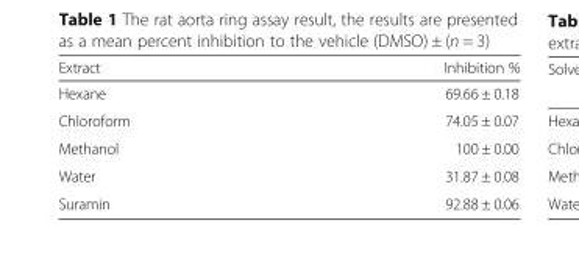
<table><thead><tr><td>Extract</td><td>Inhibition %</td></tr></thead><tbody><tr><td>Hexane</td><td>69.66 ± 0.18</td></tr><tr><td>Chloroform</td><td>74.05 ± 0.07</td></tr><tr><td>Methanol</td><td>100 ± 0.00</td></tr><tr><td>Water</td><td>31.87 ± 0.08</td></tr><tr><td>Suramin</td><td>92.88 ± 0.06</td></tr></tbody></table>